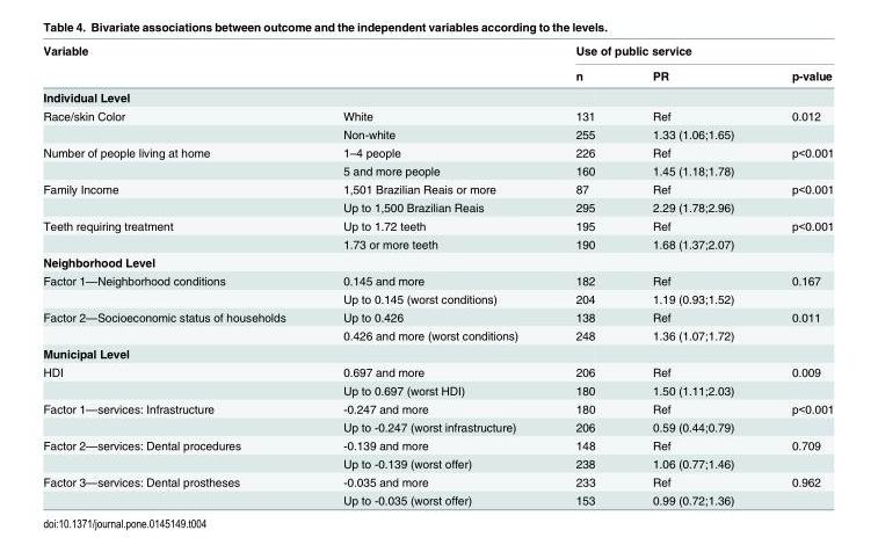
<table><thead><tr><td rowspan="2">Variable</td><td rowspan="2"></td><td colspan="3">Use of public service</td></tr><tr><td>n</td><td>PR</td><td>p-value</td></tr></thead><tbody><tr><td colspan="5">Individual Level</td></tr><tr><td rowspan="2">Race/skin Color</td><td>White</td><td>131</td><td>Ref</td><td>0.012</td></tr><tr><td>Non-white</td><td>255</td><td>1.33 (1.06;1.65)</td><td></td></tr><tr><td rowspan="2">Number of people living at home</td><td>1–4 people</td><td>226</td><td>Ref</td><td>p&lt;0.001</td></tr><tr><td>5 and more people</td><td>160</td><td>1.45 (1.18;1.78)</td><td></td></tr><tr><td rowspan="2">Family Income</td><td>1,501 Brazilian Reais or more</td><td>87</td><td>Ref</td><td>p&lt;0.001</td></tr><tr><td>Up to 1,500 Brazilian Reais</td><td>295</td><td>2.29 (1.78;2.96)</td><td></td></tr><tr><td rowspan="2">Teeth requiring treatment</td><td>Up to 1.72 teeth</td><td>195</td><td>Ref</td><td>p&lt;0.001</td></tr><tr><td>1.73 or more teeth</td><td>190</td><td>1.68 (1.37;2.07)</td><td></td></tr><tr><td colspan="5">Neighborhood Level</td></tr><tr><td rowspan="2">Factor 1—Neighborhood conditions</td><td>0.145 and more</td><td>182</td><td>Ref</td><td>0.167</td></tr><tr><td>Up to 0.145 (worst conditions)</td><td>204</td><td>1.19 (0.93;1.52)</td><td></td></tr><tr><td rowspan="2">Factor 2—Socioeconomic status of households</td><td>Up to 0.426</td><td>138</td><td>Ref</td><td>0.011</td></tr><tr><td>0.426 and more (worst conditions)</td><td>248</td><td>1.36 (1.07;1.72)</td><td></td></tr><tr><td colspan="5">Municipal Level</td></tr><tr><td rowspan="2">HDI</td><td>0.697 and more</td><td>206</td><td>Ref</td><td>0.009</td></tr><tr><td>Up to 0.697 (worst HDI)</td><td>180</td><td>1.50 (1.11;2.03)</td><td></td></tr><tr><td rowspan="2">Factor 1—services: Infrastructure</td><td>-0.247 and more</td><td>180</td><td>Ref</td><td>p&lt;0.001</td></tr><tr><td>Up to -0.247 (worst infrastructure)</td><td>206</td><td>0.59 (0.44;0.79)</td><td></td></tr><tr><td rowspan="2">Factor 2—services: Dental procedures</td><td>-0.139 and more</td><td>148</td><td>Ref</td><td>0.709</td></tr><tr><td>Up to -0.139 (worst offer)</td><td>238</td><td>1.06 (0.77;1.46)</td><td></td></tr><tr><td rowspan="2">Factor 3—services: Dental prostheses</td><td>-0.035 and more</td><td>233</td><td>Ref</td><td>0.962</td></tr><tr><td>Up to -0.035 (worst offer)</td><td>153</td><td>0.99 (0.72;1.36)</td><td></td></tr></tbody></table>